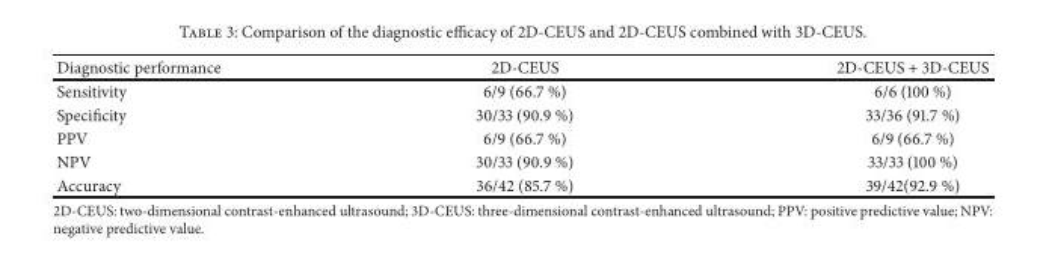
<table><thead><tr><td>Diagnostic performance</td><td>2D-CEUS</td><td>2D-CEUS + 3D-CEUS</td></tr></thead><tbody><tr><td>Sensitivity</td><td>6/9 (66.7 %)</td><td>6/6 (100 %)</td></tr><tr><td>Specificity</td><td>30/33 (90.9 %)</td><td>33/36 (91.7 %)</td></tr><tr><td>PPV</td><td>6/9 (66.7 %)</td><td>6/9 (66.7 %)</td></tr><tr><td>NPV</td><td>30/33 (90.9 %)</td><td>33/33 (100 %)</td></tr><tr><td>Accuracy</td><td>36/42 (85.7 %)</td><td>39/42(92.9 %)</td></tr></tbody></table>